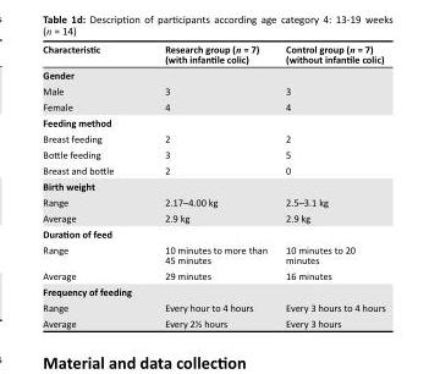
<table><thead><tr><td>Characteristic</td><td>Research group (n = 7) (with infantile colic)</td><td>Control group (n = 7) (without infantile colic)</td></tr></thead><tbody><tr><td colspan="3">Gender</td></tr><tr><td>Male</td><td>3</td><td>3</td></tr><tr><td>Female</td><td>4</td><td>4</td></tr><tr><td colspan="3">Feeding method</td></tr><tr><td>Breast feeding</td><td>2</td><td>2</td></tr><tr><td>Bottle feeding</td><td>3</td><td>5</td></tr><tr><td>Breast and bottle</td><td>2</td><td>0</td></tr><tr><td colspan="3">Birth weight</td></tr><tr><td>Range</td><td>2.17–4.00 kg</td><td>2.5–3.1 kg</td></tr><tr><td>Average</td><td>2.9 kg</td><td>2.9 kg</td></tr><tr><td colspan="3">Duration of feed</td></tr><tr><td>Range</td><td>10 minutes to more than 45 minutes</td><td>10 minutes to 20 minutes</td></tr><tr><td>Average</td><td>29 minutes</td><td>16 minutes</td></tr><tr><td colspan="3">Frequency of feeding</td></tr><tr><td>Range</td><td>Every hour to 4 hours</td><td>Every 3 hours to 4 hours</td></tr><tr><td>Average</td><td>Every 2½ hours</td><td>Every 3 hours</td></tr></tbody></table>